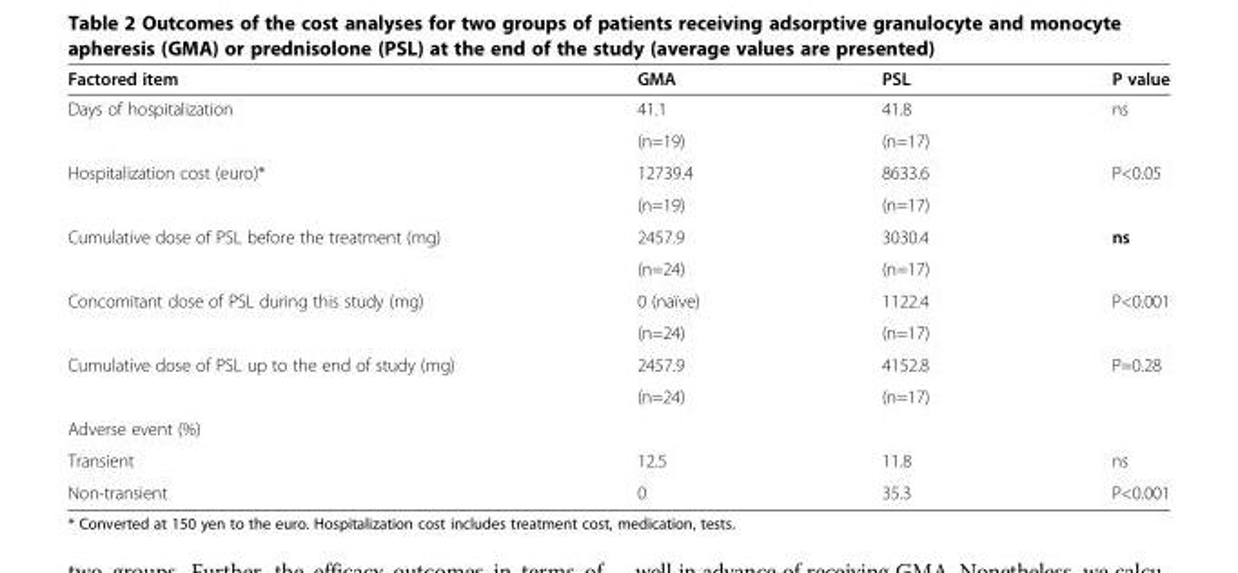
<table><thead><tr><td>Factored item</td><td>GMA</td><td>PSL</td><td>P value</td></tr></thead><tbody><tr><td rowspan="2">Days of hospitalization</td><td>41.1</td><td>41.8</td><td>ns</td></tr><tr><td>(n=19)</td><td>(n=17)</td><td></td></tr><tr><td rowspan="2">Hospitalization cost (euro)*</td><td>12739.4</td><td>8633.6</td><td>P&lt;0.05</td></tr><tr><td>(n=19)</td><td>(n=17)</td><td></td></tr><tr><td rowspan="2">Cumulative dose of PSL before the treatment (mg)</td><td>2457.9</td><td>3030.4</td><td>ns</td></tr><tr><td>(n=24)</td><td>(n=17)</td><td></td></tr><tr><td rowspan="2">Concomitant dose of PSL during this study (mg)</td><td>0 (naïve)</td><td>1122.4</td><td>P&lt;0.001</td></tr><tr><td>(n=24)</td><td>(n=17)</td><td></td></tr><tr><td rowspan="2">Cumulative dose of PSL up to the end of study (mg)</td><td>2457.9</td><td>4152.8</td><td>P=0.28</td></tr><tr><td>(n=24)</td><td>(n=17)</td><td></td></tr><tr><td colspan="4">Adverse event (%)</td></tr><tr><td>Transient</td><td>12.5</td><td>11.8</td><td>ns</td></tr><tr><td>Non-transient</td><td>0</td><td>35.3</td><td>P&lt;0.001</td></tr></tbody></table>